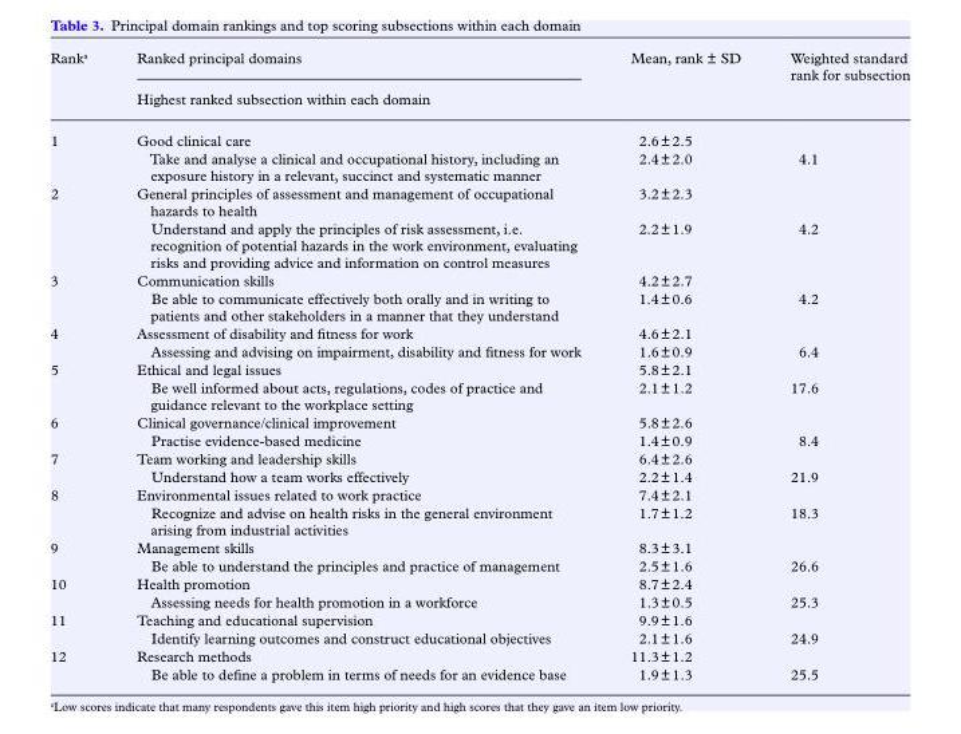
<table><thead><tr><td rowspan="2">Rank<sup>a</sup></td><td rowspan="2">Ranked principal domains Highest ranked subsection within each domain</td><td rowspan="2">Mean, rank ± SD</td><td rowspan="2">Weighted standard rank for subsection</td></tr><tr></tr></thead><tbody><tr><td rowspan="2">1</td><td>Good clinical care</td><td>2.6 ± 2.5</td><td></td></tr><tr><td>Take and analyse a clinical and occupational history, including an exposure history in a relevant, succinct and systematic manner</td><td>2.4 ± 2.0</td><td>4.1</td></tr><tr><td rowspan="2">2</td><td>General principles of assessment and management of occupational hazards to health</td><td>3.2 ± 2.3</td><td></td></tr><tr><td>Understand and apply the principles of risk assessment, i.e. recognition of potential hazards in the work environment, evaluating risks and providing advice and information on control measures</td><td>2.2 ± 1.9</td><td>4.2</td></tr><tr><td rowspan="2">3</td><td>Communication skills</td><td>4.2 ± 2.7</td><td></td></tr><tr><td>Be able to communicate effectively both orally and in writing to patients and other stakeholders in a manner that they understand</td><td>1.4 ± 0.6</td><td>4.2</td></tr><tr><td rowspan="2">4</td><td>Assessment of disability and fitness for work</td><td>4.6 ± 2.1</td><td></td></tr><tr><td>Assessing and advising on impairment, disability and fitness for work</td><td>1.6 ± 0.9</td><td>6.4</td></tr><tr><td rowspan="2">5</td><td>Ethical and legal issues</td><td>5.8 ± 2.1</td><td></td></tr><tr><td>Be well informed about acts, regulations, codes of practice and guidance relevant to the workplace setting</td><td>2.1 ± 1.2</td><td>17.6</td></tr><tr><td rowspan="2">6</td><td>Clinical governance/clinical improvement</td><td>5.8 ± 2.6</td><td></td></tr><tr><td>Practise evidence-based medicine</td><td>1.4 ± 0.9</td><td>8.4</td></tr><tr><td rowspan="2">7</td><td>Team working and leadership skills</td><td>6.4 ± 2.6</td><td></td></tr><tr><td>Understand how a team works effectively</td><td>2.2 ± 1.4</td><td>21.9</td></tr><tr><td rowspan="2">8</td><td>Environmental issues related to work practice</td><td>7.4 ± 2.1</td><td></td></tr><tr><td>Recognize and advise on health risks in the general environment arising from industrial activities</td><td>1.7 ± 1.2</td><td>18.3</td></tr><tr><td rowspan="2">9</td><td>Management skills</td><td>8.3 ± 3.1</td><td></td></tr><tr><td>Be able to understand the principles and practice of management</td><td>2.5 ± 1.6</td><td>26.6</td></tr><tr><td rowspan="2">10</td><td>Health promotion</td><td>8.7 ± 2.4</td><td></td></tr><tr><td>Assessing needs for health promotion in a workforce</td><td>1.3 ± 0.5</td><td>25.3</td></tr><tr><td rowspan="2">11</td><td>Teaching and educational supervision</td><td>9.9 ± 1.6</td><td></td></tr><tr><td>Identify learning outcomes and construct educational objectives</td><td>2.1 ± 1.6</td><td>24.9</td></tr><tr><td rowspan="2">12</td><td>Research methods</td><td>11.3 ± 1.2</td><td></td></tr><tr><td>Be able to define a problem in terms of needs for an evidence base</td><td>1.9 ± 1.3</td><td>25.5</td></tr></tbody></table>